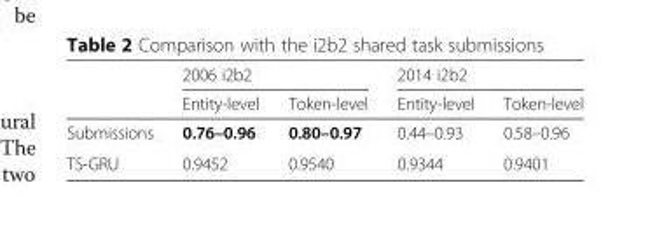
<table><thead><tr><td rowspan="2"></td><td colspan="2">2006 i2b2</td><td colspan="2">2014 i2b2</td></tr><tr><td>Entity-level</td><td>Token-level</td><td>Entity-level</td><td>Token-level</td></tr></thead><tbody><tr><td>Submissions</td><td>0.76–0.96</td><td>0.80–0.97</td><td>0.44–0.93</td><td>0.58–0.96</td></tr><tr><td>TS-GRU</td><td>0.9452</td><td>0.9540</td><td>0.9344</td><td>0.9401</td></tr></tbody></table>